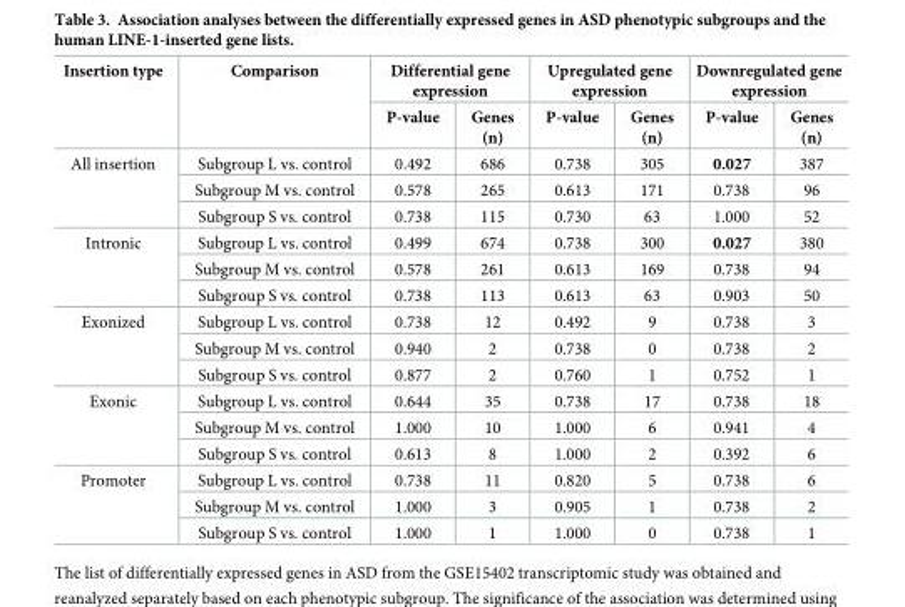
<table><thead><tr><td rowspan="2">Insertion type</td><td rowspan="2">Comparison</td><td colspan="2">Differential gene expression</td><td colspan="2">Upregulated gene expression</td><td colspan="2">Downregulated gene expression</td></tr><tr><td>P-value</td><td>Genes (n)</td><td>P-value</td><td>Genes (n)</td><td>P-value</td><td>Genes (n)</td></tr></thead><tbody><tr><td rowspan="3">All insertion</td><td>Subgroup L vs. control</td><td>0.492</td><td>686</td><td>0.738</td><td>305</td><td>0.027</td><td>387</td></tr><tr><td>Subgroup M vs. control</td><td>0.578</td><td>265</td><td>0.613</td><td>171</td><td>0.738</td><td>96</td></tr><tr><td>Subgroup S vs. control</td><td>0.738</td><td>115</td><td>0.730</td><td>63</td><td>1.000</td><td>52</td></tr><tr><td rowspan="3">Intronic</td><td>Subgroup L vs. control</td><td>0.499</td><td>674</td><td>0.738</td><td>300</td><td>0.027</td><td>380</td></tr><tr><td>Subgroup M vs. control</td><td>0.578</td><td>261</td><td>0.613</td><td>169</td><td>0.738</td><td>94</td></tr><tr><td>Subgroup S vs. control</td><td>0.738</td><td>113</td><td>0.613</td><td>63</td><td>0.903</td><td>50</td></tr><tr><td rowspan="3">Exonized</td><td>Subgroup L vs. control</td><td>0.738</td><td>12</td><td>0.492</td><td>9</td><td>0.738</td><td>3</td></tr><tr><td>Subgroup M vs. control</td><td>0.940</td><td>2</td><td>0.738</td><td>0</td><td>0.738</td><td>2</td></tr><tr><td>Subgroup S vs. control</td><td>0.877</td><td>2</td><td>0.760</td><td>1</td><td>0.752</td><td>1</td></tr><tr><td rowspan="3">Exonic</td><td>Subgroup L vs. control</td><td>0.644</td><td>35</td><td>0.738</td><td>17</td><td>0.738</td><td>18</td></tr><tr><td>Subgroup M vs. control</td><td>1.000</td><td>10</td><td>1.000</td><td>6</td><td>0.941</td><td>4</td></tr><tr><td>Subgroup S vs. control</td><td>0.613</td><td>8</td><td>1.000</td><td>2</td><td>0.392</td><td>6</td></tr><tr><td rowspan="3">Promoter</td><td>Subgroup L vs. control</td><td>0.738</td><td>11</td><td>0.820</td><td>5</td><td>0.738</td><td>6</td></tr><tr><td>Subgroup M vs. control</td><td>1.000</td><td>3</td><td>0.905</td><td>1</td><td>0.738</td><td>2</td></tr><tr><td>Subgroup S vs. control</td><td>1.000</td><td>1</td><td>1.000</td><td>0</td><td>0.738</td><td>1</td></tr></tbody></table>